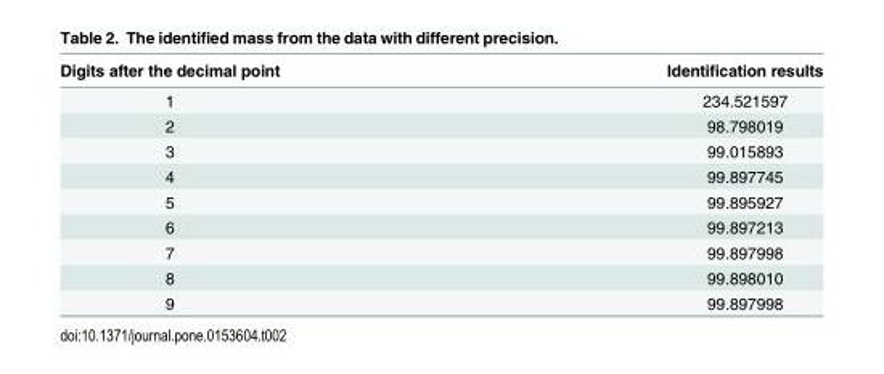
<table><thead><tr><td>Digits after the decimal point</td><td>Identification results</td></tr></thead><tbody><tr><td>1</td><td>234.521597</td></tr><tr><td>2</td><td>98.798019</td></tr><tr><td>3</td><td>99.015893</td></tr><tr><td>4</td><td>99.897745</td></tr><tr><td>5</td><td>99.895927</td></tr><tr><td>6</td><td>99.897213</td></tr><tr><td>7</td><td>99.897998</td></tr><tr><td>8</td><td>99.898010</td></tr><tr><td>9</td><td>99.897998</td></tr></tbody></table>